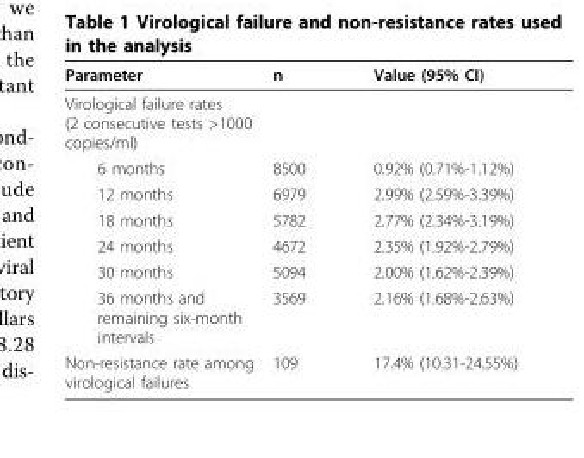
<table><thead><tr><td>Parameter</td><td>n</td><td>Value (95% CI)</td></tr></thead><tbody><tr><td colspan="3">Virological failure rates (2 consecutive tests &gt;1000 copies/ml)</td></tr><tr><td>6 months</td><td>8500</td><td>0.92% (0.71%-1.12%)</td></tr><tr><td>12 months</td><td>6979</td><td>2.99% (2.59%-3.39%)</td></tr><tr><td>18 months</td><td>5782</td><td>2.77% (2.34%-3.19%)</td></tr><tr><td>24 months</td><td>4672</td><td>2.35% (1.92%-2.79%)</td></tr><tr><td>30 months</td><td>5094</td><td>2.00% (1.62%-2.39%)</td></tr><tr><td>36 months and remaining six-month intervals</td><td>3569</td><td>2.16% (1.68%-2.63%)</td></tr><tr><td>Non-resistance rate among virological failures</td><td>109</td><td>17.4% (10.31-24.55%)</td></tr></tbody></table>